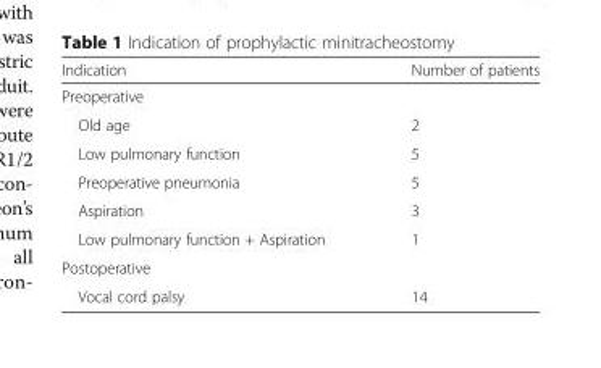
<table><thead><tr><td>Indication</td><td>Number of patients</td></tr></thead><tbody><tr><td colspan="2">Preoperative</td></tr><tr><td>Old age</td><td>2</td></tr><tr><td>Low pulmonary function</td><td>5</td></tr><tr><td>Preoperative pneumonia</td><td>5</td></tr><tr><td>Aspiration</td><td>3</td></tr><tr><td>Low pulmonary function + Aspiration</td><td>1</td></tr><tr><td colspan="2">Postoperative</td></tr><tr><td>Vocal cord palsy</td><td>14</td></tr></tbody></table>